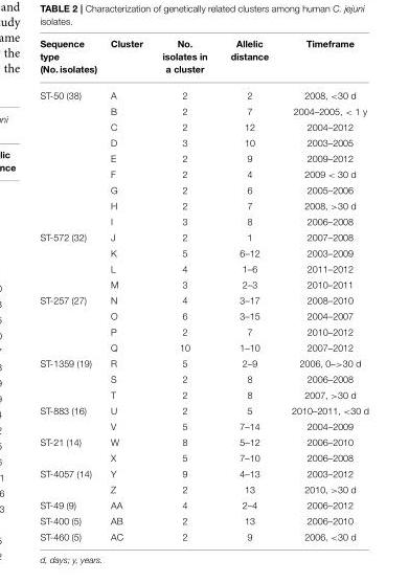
<table><thead><tr><td>Sequence type (No. isolates)</td><td>Cluster</td><td>No. isolates in a cluster</td><td>Allelic distance</td><td>Timeframe</td></tr></thead><tbody><tr><td rowspan="9">ST-50 (38)</td><td>A</td><td>2</td><td>2</td><td>2008, &lt;30 d</td></tr><tr><td>B</td><td>2</td><td>7</td><td>2004–2005, &lt; 1 y</td></tr><tr><td>C</td><td>2</td><td>12</td><td>2004–2012</td></tr><tr><td>D</td><td>3</td><td>10</td><td>2003–2005</td></tr><tr><td>E</td><td>2</td><td>9</td><td>2009–2012</td></tr><tr><td>F</td><td>2</td><td>4</td><td>2009 &lt; 30 d</td></tr><tr><td>G</td><td>2</td><td>6</td><td>2005–2006</td></tr><tr><td>H</td><td>2</td><td>7</td><td>2008, &gt;30 d</td></tr><tr><td>I</td><td>3</td><td>8</td><td>2006–2008</td></tr><tr><td rowspan="4">ST-572 (32)</td><td>J</td><td>2</td><td>1</td><td>2007–2008</td></tr><tr><td>K</td><td>5</td><td>6–12</td><td>2003–2009</td></tr><tr><td>L</td><td>4</td><td>1–6</td><td>2011–2012</td></tr><tr><td>M</td><td>3</td><td>2–3</td><td>2010–2011</td></tr><tr><td rowspan="4">ST-257 (27)</td><td>N</td><td>4</td><td>3–17</td><td>2008–2010</td></tr><tr><td>O</td><td>6</td><td>3–15</td><td>2004–2007</td></tr><tr><td>P</td><td>2</td><td>7</td><td>2010–2012</td></tr><tr><td>Q</td><td>10</td><td>1–10</td><td>2007–2012</td></tr><tr><td rowspan="3">ST-1359 (19)</td><td>R</td><td>5</td><td>2–9</td><td>2006, 0–&gt;30 d</td></tr><tr><td>S</td><td>2</td><td>8</td><td>2006–2008</td></tr><tr><td>T</td><td>2</td><td>8</td><td>2007, &gt;30 d</td></tr><tr><td rowspan="2">ST-883 (16)</td><td>U</td><td>2</td><td>5</td><td>2010–2011, &lt;30 d</td></tr><tr><td>V</td><td>5</td><td>7–14</td><td>2004–2009</td></tr><tr><td rowspan="2">ST-21 (14)</td><td>W</td><td>8</td><td>5–12</td><td>2006–2010</td></tr><tr><td>X</td><td>5</td><td>7–10</td><td>2006–2008</td></tr><tr><td rowspan="2">ST-4057 (14)</td><td>Y</td><td>9</td><td>4–13</td><td>2003–2012</td></tr><tr><td>Z</td><td>2</td><td>13</td><td>2010, &gt;30 d</td></tr><tr><td>ST-49 (9)</td><td>AA</td><td>4</td><td>2–4</td><td>2006–2012</td></tr><tr><td>ST-400 (5)</td><td>AB</td><td>2</td><td>13</td><td>2006–2010</td></tr><tr><td>ST-460 (5)</td><td>AC</td><td>2</td><td>9</td><td>2006, &lt;30 d</td></tr></tbody></table>